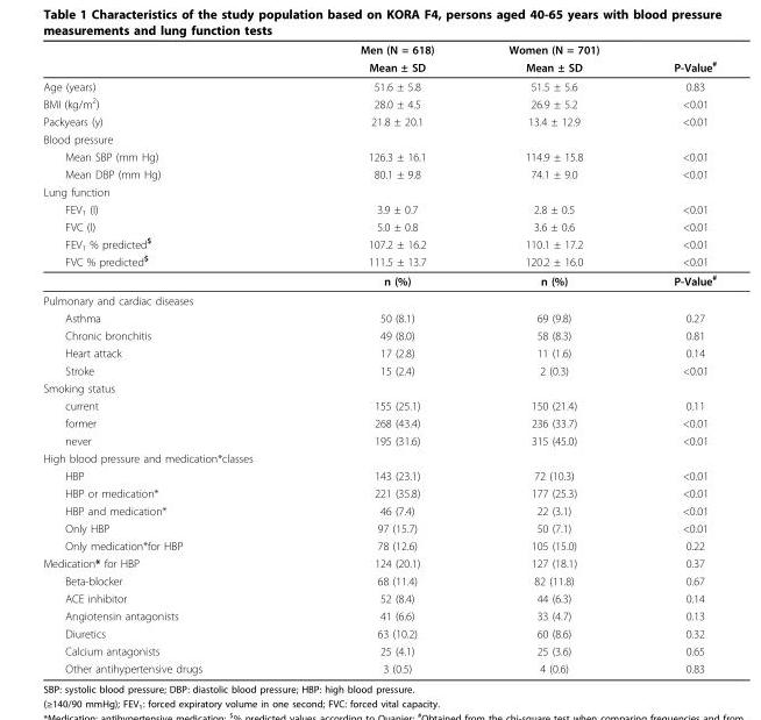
<table><thead><tr><td rowspan="2"></td><td rowspan="2">Men (N = 618) Mean ± SD</td><td rowspan="2">Women (N = 701) Mean ± SD</td><td rowspan="2">P-Value<sup>#</sup></td></tr><tr></tr></thead><tbody><tr><td>Age (years)</td><td>51.6 ± 5.8</td><td>51.5 ± 5.6</td><td>0.83</td></tr><tr><td>BMI (kg/m<sup>2</sup>)</td><td>28.0 ± 4.5</td><td>26.9 ± 5.2</td><td>&lt;0.01</td></tr><tr><td>Packyears (y)</td><td>21.8 ± 20.1</td><td>13.4 ± 12.9</td><td>&lt;0.01</td></tr><tr><td colspan="4">Blood pressure</td></tr><tr><td>Mean SBP (mm Hg)</td><td>126.3 ± 16.1</td><td>114.9 ± 15.8</td><td>&lt;0.01</td></tr><tr><td>Mean DBP (mm Hg)</td><td>80.1 ± 9.8</td><td>74.1 ± 9.0</td><td>&lt;0.01</td></tr><tr><td colspan="4">Lung function</td></tr><tr><td>FEV<sub>1</sub> (l)</td><td>3.9 ± 0.7</td><td>2.8 ± 0.5</td><td>&lt;0.01</td></tr><tr><td>FVC (l)</td><td>5.0 ± 0.8</td><td>3.6 ± 0.6</td><td>&lt;0.01</td></tr><tr><td>FEV<sub>1</sub> % predicted<sup>$</sup></td><td>107.2 ± 16.2</td><td>110.1 ± 17.2</td><td>&lt;0.01</td></tr><tr><td rowspan="2">FVC % predicted<sup>$</sup></td><td>111.5 ± 13.7</td><td>120.2 ± 16.0</td><td>&lt;0.01</td></tr><tr><td>n (%)</td><td>n (%)</td><td>P-Value<sup>#</sup></td></tr><tr><td colspan="4">Pulmonary and cardiac diseases</td></tr><tr><td>Asthma</td><td>50 (8.1)</td><td>69 (9.8)</td><td>0.27</td></tr><tr><td>Chronic bronchitis</td><td>49 (8.0)</td><td>58 (8.3)</td><td>0.81</td></tr><tr><td>Heart attack</td><td>17 (2.8)</td><td>11 (1.6)</td><td>0.14</td></tr><tr><td>Stroke</td><td>15 (2.4)</td><td>2 (0.3)</td><td>&lt;0.01</td></tr><tr><td colspan="4">Smoking status</td></tr><tr><td>current</td><td>155 (25.1)</td><td>150 (21.4)</td><td>0.11</td></tr><tr><td>former</td><td>268 (43.4)</td><td>236 (33.7)</td><td>&lt;0.01</td></tr><tr><td>never</td><td>195 (31.6)</td><td>315 (45.0)</td><td>&lt;0.01</td></tr><tr><td colspan="4">High blood pressure and medication*classes</td></tr><tr><td>HBP</td><td>143 (23.1)</td><td>72 (10.3)</td><td>&lt;0.01</td></tr><tr><td>HBP or medication*</td><td>221 (35.8)</td><td>177 (25.3)</td><td>&lt;0.01</td></tr><tr><td>HBP and medication*</td><td>46 (7.4)</td><td>22 (3.1)</td><td>&lt;0.01</td></tr><tr><td>Only HBP</td><td>97 (15.7)</td><td>50 (7.1)</td><td>&lt;0.01</td></tr><tr><td>Only medication*for HBP</td><td>78 (12.6)</td><td>105 (15.0)</td><td>0.22</td></tr><tr><td>Medication* for HBP</td><td>124 (20.1)</td><td>127 (18.1)</td><td>0.37</td></tr><tr><td>Beta-blocker</td><td>68 (11.4)</td><td>82 (11.8)</td><td>0.67</td></tr><tr><td>ACE inhibitor</td><td>52 (8.4)</td><td>44 (6.3)</td><td>0.14</td></tr><tr><td>Angiotensin antagonists</td><td>41 (6.6)</td><td>33 (4.7)</td><td>0.13</td></tr><tr><td>Diuretics</td><td>63 (10.2)</td><td>60 (8.6)</td><td>0.32</td></tr><tr><td>Calcium antagonists</td><td>25 (4.1)</td><td>25 (3.6)</td><td>0.65</td></tr><tr><td>Other antihypertensive drugs</td><td>3 (0.5)</td><td>4 (0.6)</td><td>0.83</td></tr></tbody></table>